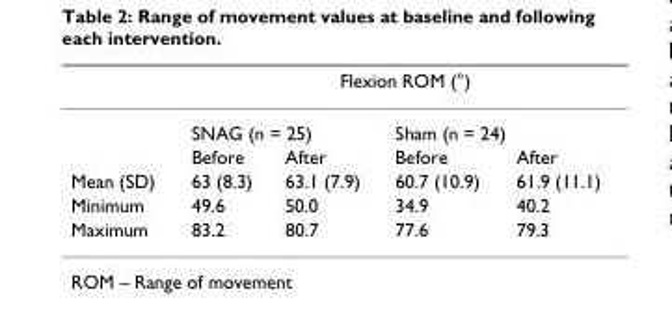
<table><thead><tr><td rowspan="3"></td><td colspan="4">Flexion ROM (°)</td></tr><tr><td colspan="2">SNAG (n = 25)</td><td colspan="2">Sham (n = 24)</td></tr><tr><td>Before</td><td>After</td><td>Before</td><td>After</td></tr></thead><tbody><tr><td>Mean (SD)</td><td>63 (8.3)</td><td>63.1 (7.9)</td><td>60.7 (10.9)</td><td>61.9 (11.1)</td></tr><tr><td>Minimum</td><td>49.6</td><td>50.0</td><td>34.9</td><td>40.2</td></tr><tr><td>Maximum</td><td>83.2</td><td>80.7</td><td>77.6</td><td>79.3</td></tr></tbody></table>